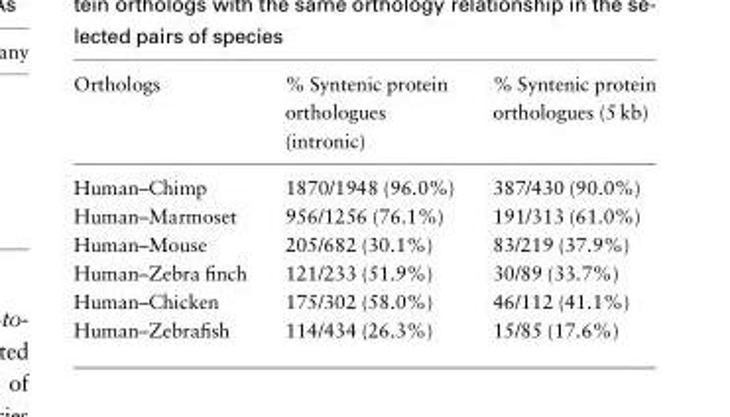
<table><thead><tr><td>Orthologs</td><td>% Syntenic protein orthologues (intronic)</td><td>% Syntenic protein orthologues (5 kb)</td></tr></thead><tbody><tr><td>Human–Chimp</td><td>1870/1948 (96.0%)</td><td>387/430 (90.0%)</td></tr><tr><td>Human–Marmoset</td><td>956/1256 (76.1%)</td><td>191/313 (61.0%)</td></tr><tr><td>Human–Mouse</td><td>205/682 (30.1%)</td><td>83/219 (37.9%)</td></tr><tr><td>Human–Zebra finch</td><td>121/233 (51.9%)</td><td>30/89 (33.7%)</td></tr><tr><td>Human–Chicken</td><td>175/302 (58.0%)</td><td>46/112 (41.1%)</td></tr><tr><td>Human–Zebrafish</td><td>114/434 (26.3%)</td><td>15/85 (17.6%)</td></tr></tbody></table>